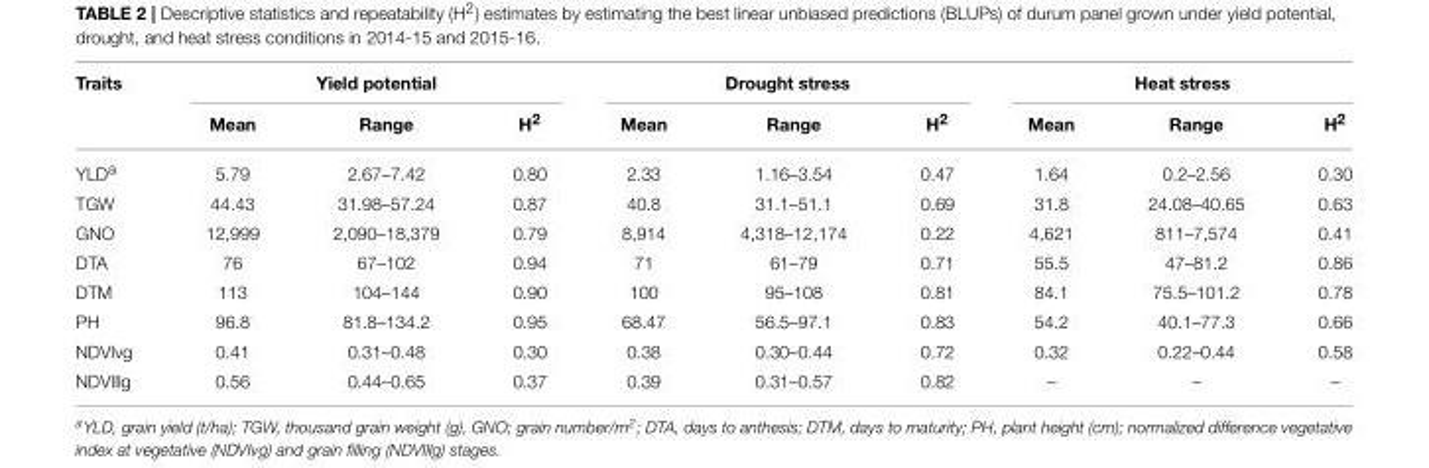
<table><thead><tr><td rowspan="2">Traits</td><td colspan="3">Yield potential</td><td colspan="3">Drought stress</td><td colspan="3">Heat stress</td></tr><tr><td>Mean</td><td>Range</td><td>H<sup>2</sup></td><td>Mean</td><td>Range</td><td>H<sup>2</sup></td><td>Mean</td><td>Range</td><td>H<sup>2</sup></td></tr></thead><tbody><tr><td>YLD<sup>a</sup></td><td>5.79</td><td>2.67–7.42</td><td>0.80</td><td>2.33</td><td>1.16–3.54</td><td>0.47</td><td>1.64</td><td>0.2–2.56</td><td>0.30</td></tr><tr><td>TGW</td><td>44.43</td><td>31.98–57.24</td><td>0.87</td><td>40.8</td><td>31.1–51.1</td><td>0.69</td><td>31.8</td><td>24.08–40.65</td><td>0.63</td></tr><tr><td>GNO</td><td>12,999</td><td>2,090–18,379</td><td>0.79</td><td>8,914</td><td>4,318–12,174</td><td>0.22</td><td>4,621</td><td>811–7,574</td><td>0.41</td></tr><tr><td>DTA</td><td>76</td><td>67–102</td><td>0.94</td><td>71</td><td>61–79</td><td>0.71</td><td>55.5</td><td>47–81.2</td><td>0.86</td></tr><tr><td>DTM</td><td>113</td><td>104–144</td><td>0.90</td><td>100</td><td>95–108</td><td>0.81</td><td>84.1</td><td>75.5–101.2</td><td>0.78</td></tr><tr><td>PH</td><td>96.8</td><td>81.8–134.2</td><td>0.95</td><td>68.47</td><td>56.5–97.1</td><td>0.83</td><td>54.2</td><td>40.1–77.3</td><td>0.66</td></tr><tr><td>NDVIvg</td><td>0.41</td><td>0.31–0.48</td><td>0.30</td><td>0.38</td><td>0.30–0.44</td><td>0.72</td><td>0.32</td><td>0.22–0.44</td><td>0.58</td></tr><tr><td>NDVIllg</td><td>0.56</td><td>0.44–0.65</td><td>0.37</td><td>0.39</td><td>0.31–0.57</td><td>0.82</td><td>–</td><td>–</td><td>–</td></tr></tbody></table>